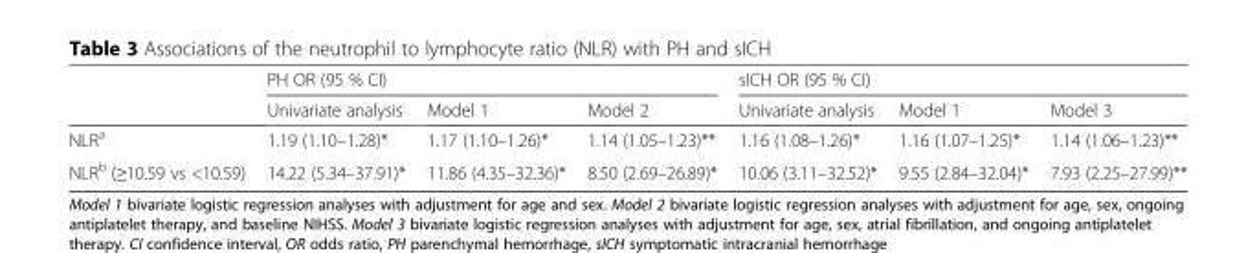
<table><thead><tr><td rowspan="2"></td><td colspan="3">PH OR (95 % CI)</td><td colspan="3">sICH OR (95 % CI)</td></tr><tr><td>Univariate analysis</td><td>Model 1</td><td>Model 2</td><td>Univariate analysis</td><td>Model 1</td><td>Model 3</td></tr></thead><tbody><tr><td>NLR<sup>a</sup></td><td>1.19 (1.10–1.28)*</td><td>1.17 (1.10–1.26)*</td><td>1.14 (1.05–1.23)**</td><td>1.16 (1.08–1.26)*</td><td>1.16 (1.07–1.25)*</td><td>1.14 (1.06–1.23)**</td></tr><tr><td>NLR<sup>b</sup> (≥10.59 vs &lt;10.59)</td><td>14.22 (5.34–37.91)*</td><td>11.86 (4.35–32.36)*</td><td>8.50 (2.69–26.89)*</td><td>10.06 (3.11–32.52)*</td><td>9.55 (2.84–32.04)*</td><td>7.93 (2.25–27.99)**</td></tr></tbody></table>